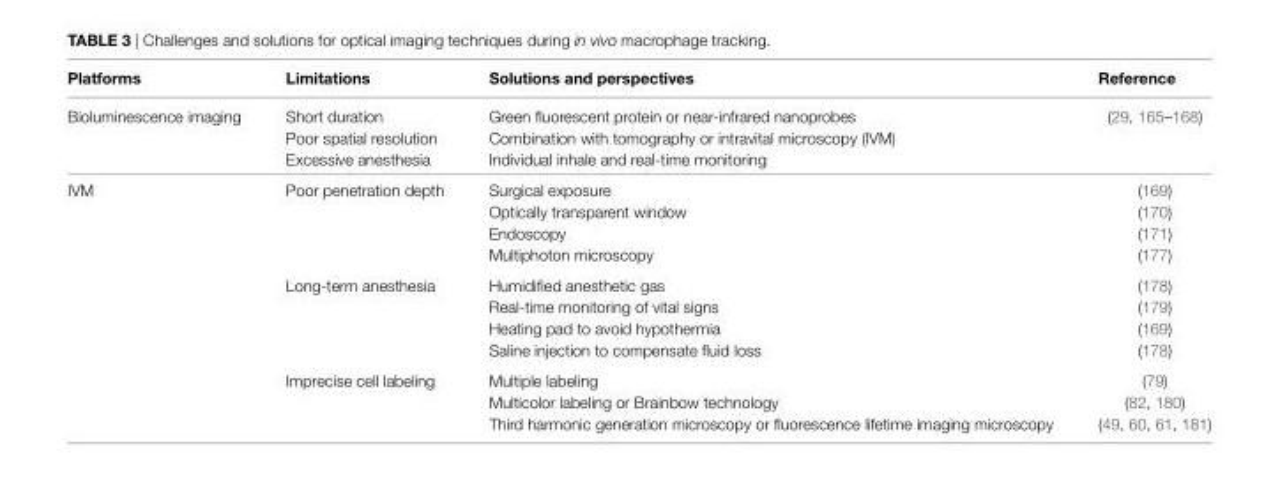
<table><thead><tr><td>Platforms</td><td>limitations</td><td>Solutions and perspectives</td><td>Reference</td></tr></thead><tbody><tr><td rowspan="3">Bioluminescence imaging</td><td>Short duration</td><td>Green fluorescent protein or near-infrared nanoprobes</td><td>(29, 165–168)</td></tr><tr><td>Poor spatial resolution</td><td>Combination with tomography or intravital microscopy (IVM)</td><td></td></tr><tr><td>Excessive anesthesia</td><td>Individual inhale and real-time monitoring</td><td></td></tr><tr><td rowspan="11">IVM</td><td rowspan="4">Poor penetration depth</td><td>Surgical exposure</td><td>(169)</td></tr><tr><td>Optically transparent window</td><td>(170)</td></tr><tr><td>Endoscopy</td><td>(171)</td></tr><tr><td>Multiphoton microscopy</td><td>(177)</td></tr><tr><td rowspan="4">Long-term anesthesia</td><td>Humidified anesthetic gas</td><td>(178)</td></tr><tr><td>Real-time monitoring of vital signs</td><td>(179)</td></tr><tr><td>Heating pad to avoid hypothermia</td><td>(169)</td></tr><tr><td>Saline injection to compensate fluid loss</td><td>(178)</td></tr><tr><td rowspan="3">Imprecise cell labeling</td><td>Multiple labeling</td><td>(79)</td></tr><tr><td>Multicolor labeling or Brainbow technology</td><td>(82, 180)</td></tr><tr><td>Third harmonic generation microscopy or fluorescence lifetime imaging microscopy</td><td>(49, 60, 61, 181)</td></tr></tbody></table>